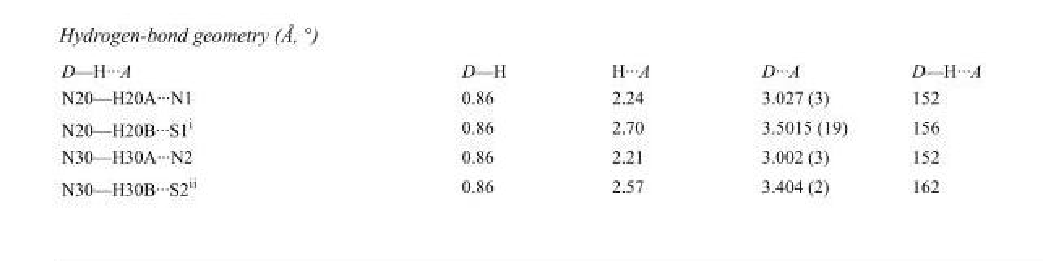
<table><tbody><tr><td>D—H···A</td><td>D—H</td><td>H···A</td><td>D···A</td><td>D—H···A</td></tr><tr><td>N20—H20A···N1</td><td>0.86</td><td>2.24</td><td>3.027 (3)</td><td>152</td></tr><tr><td>N20—H20B···S1<sup>i</sup></td><td>0.86</td><td>2.70</td><td>3.5015 (19)</td><td>156</td></tr><tr><td>N30—H30A···N2</td><td>0.86</td><td>2.21</td><td>3.002 (3)</td><td>152</td></tr><tr><td>N30—H30B···S2<sup>ii</sup></td><td>0.86</td><td>2.57</td><td>3.404 (2)</td><td>162</td></tr></tbody></table>